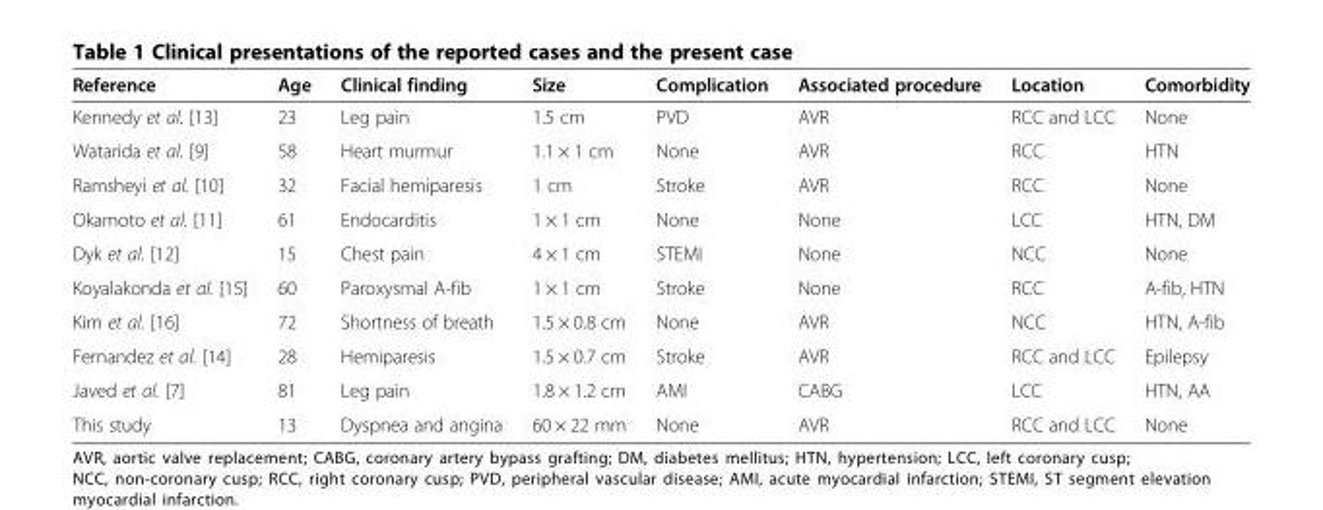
<table><thead><tr><td>Reference</td><td>Age</td><td>Clinical finding</td><td>Size</td><td>Complication</td><td>Associated procedure</td><td>Location</td><td>Comorbidity</td></tr></thead><tbody><tr><td>Kennedy et al. [13]</td><td>23</td><td>Leg pain</td><td>1.5 cm</td><td>PVD</td><td>AVR</td><td>RCC and LCC</td><td>None</td></tr><tr><td>Watarida et al. [9]</td><td>58</td><td>Heart murmur</td><td>1.1 × 1 cm</td><td>None</td><td>AVR</td><td>RCC</td><td>HTN</td></tr><tr><td>Ramsheyi et al. [10]</td><td>32</td><td>Facial hemiparesis</td><td>1 cm</td><td>Stroke</td><td>AVR</td><td>RCC</td><td>None</td></tr><tr><td>Okamoto et al. [11]</td><td>61</td><td>Endocarditis</td><td>1 × 1 cm</td><td>None</td><td>None</td><td>LCC</td><td>HTN, DM</td></tr><tr><td>Dyk et al. [12]</td><td>15</td><td>Chest pain</td><td>4 × 1 cm</td><td>STEMI</td><td>None</td><td>NCC</td><td>None</td></tr><tr><td>Koyalakonda et al. [15]</td><td>60</td><td>Paroxysmal A-fib</td><td>1 × 1 cm</td><td>Stroke</td><td>None</td><td>RCC</td><td>A-fib, HTN</td></tr><tr><td>Kim et al. [16]</td><td>72</td><td>Shortness of breath</td><td>1.5 × 0.8 cm</td><td>None</td><td>AVR</td><td>NCC</td><td>HTN, A-fib</td></tr><tr><td>Fernandez et al. [14]</td><td>28</td><td>Hemiparesis</td><td>1.5 × 0.7 cm</td><td>Stroke</td><td>AVR</td><td>RCC and LCC</td><td>Epilepsy</td></tr><tr><td>Javed et al. [7]</td><td>81</td><td>Leg pain</td><td>1.8 × 1.2 cm</td><td>AMI</td><td>CABG</td><td>LCC</td><td>HTN, AA</td></tr><tr><td>This study</td><td>13</td><td>Dyspnea and angina</td><td>60 × 22 mm</td><td>None</td><td>AVR</td><td>RCC and LCC</td><td>None</td></tr></tbody></table>